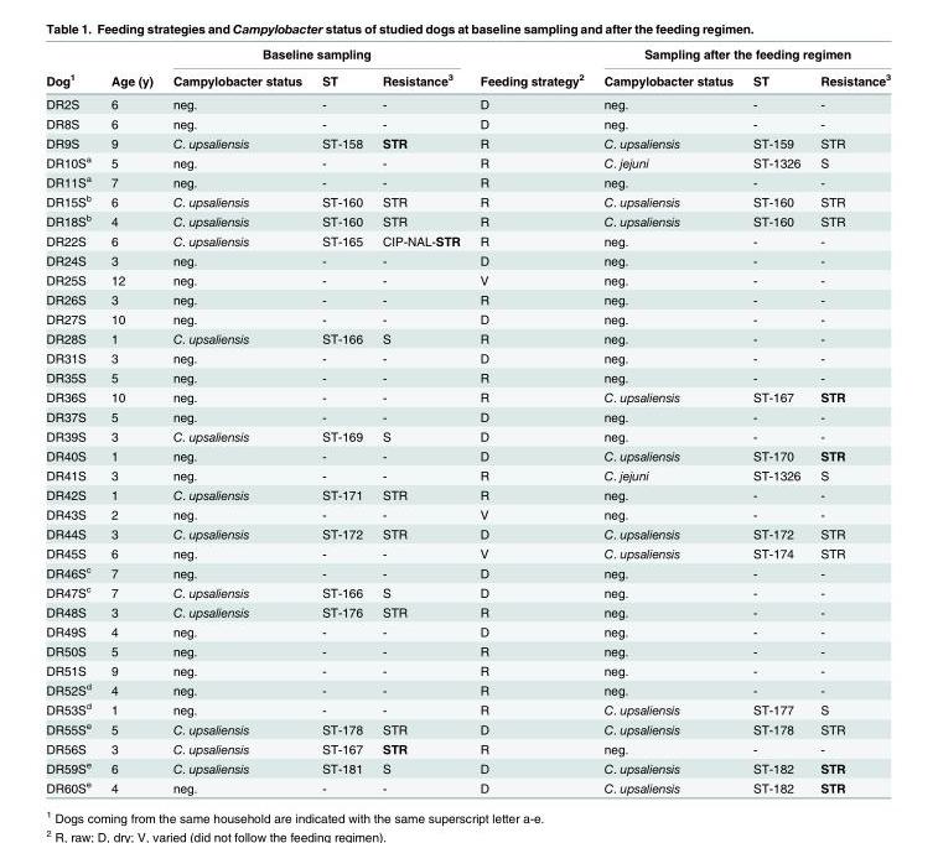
<table><thead><tr><td rowspan="2">Dog<sup>1</sup></td><td rowspan="2">Age (y)</td><td colspan="3">Baseline sampling</td><td rowspan="2">Feeding strategy<sup>2</sup></td><td colspan="3">Sampling after the feeding regimen</td></tr><tr><td>Campylobacter status</td><td>ST</td><td>Resistance<sup>3</sup></td><td>Campylobacter status</td><td>ST</td><td>Resistance<sup>3</sup></td></tr></thead><tbody><tr><td>DR2S</td><td>6</td><td>neg.</td><td>-</td><td>-</td><td>D</td><td>neg.</td><td>-</td><td>-</td></tr><tr><td>DR8S</td><td>6</td><td>neg.</td><td>-</td><td>-</td><td>D</td><td>neg.</td><td>-</td><td>-</td></tr><tr><td>DR9S</td><td>9</td><td>C. upsaliensis</td><td>ST-158</td><td>STR</td><td>R</td><td>C. upsaliensis</td><td>ST-159</td><td>STR</td></tr><tr><td>DR10S<sup>a</sup></td><td>5</td><td>neg.</td><td>-</td><td>-</td><td>R</td><td>C. jejuni</td><td>ST-1326</td><td>S</td></tr><tr><td>DR11S<sup>a</sup></td><td>7</td><td>neg.</td><td>-</td><td>-</td><td>R</td><td>neg.</td><td>-</td><td>-</td></tr><tr><td>DR15S<sup>b</sup></td><td>6</td><td>C. upsaliensis</td><td>ST-160</td><td>STR</td><td>R</td><td>C. upsaliensis</td><td>ST-160</td><td>STR</td></tr><tr><td>DR18S<sup>b</sup></td><td>4</td><td>C. upsaliensis</td><td>ST-160</td><td>STR</td><td>R</td><td>C. upsaliensis</td><td>ST-160</td><td>STR</td></tr><tr><td>DR22S</td><td>6</td><td>C. upsaliensis</td><td>ST-165</td><td>CIP-NAL-STR</td><td>R</td><td>neg.</td><td>-</td><td>-</td></tr><tr><td>DR24S</td><td>3</td><td>neg.</td><td>-</td><td>-</td><td>D</td><td>neg.</td><td>-</td><td>-</td></tr><tr><td>DR25S</td><td>12</td><td>neg.</td><td>-</td><td>-</td><td>V</td><td>neg.</td><td>-</td><td>-</td></tr><tr><td>DR26S</td><td>3</td><td>neg.</td><td>-</td><td>-</td><td>R</td><td>neg.</td><td>-</td><td>-</td></tr><tr><td>DR27S</td><td>10</td><td>neg.</td><td>-</td><td>-</td><td>D</td><td>neg.</td><td>-</td><td>-</td></tr><tr><td>DR28S</td><td>1</td><td>C. upsaliensis</td><td>ST-166</td><td>S</td><td>R</td><td>neg.</td><td>-</td><td>-</td></tr><tr><td>DR31S</td><td>3</td><td>neg.</td><td>-</td><td>-</td><td>D</td><td>neg.</td><td>-</td><td>-</td></tr><tr><td>DR35S</td><td>5</td><td>neg.</td><td>-</td><td>-</td><td>R</td><td>neg.</td><td>-</td><td>-</td></tr><tr><td>DR36S</td><td>10</td><td>neg.</td><td>-</td><td>-</td><td>R</td><td>C. upsaliensis</td><td>ST-167</td><td>STR</td></tr><tr><td>DR37S</td><td>5</td><td>neg.</td><td>-</td><td>-</td><td>D</td><td>neg.</td><td>-</td><td>-</td></tr><tr><td>DR39S</td><td>3</td><td>C. upsaliensis</td><td>ST-169</td><td>S</td><td>D</td><td>neg.</td><td>-</td><td>-</td></tr><tr><td>DR40S</td><td>1</td><td>neg.</td><td>-</td><td>-</td><td>D</td><td>C. upsaliensis</td><td>ST-170</td><td>STR</td></tr><tr><td>DR41S</td><td>3</td><td>neg.</td><td>-</td><td>-</td><td>R</td><td>C. jejuni</td><td>ST-1326</td><td>S</td></tr><tr><td>DR42S</td><td>1</td><td>C. upsaliensis</td><td>ST-171</td><td>STR</td><td>R</td><td>neg.</td><td>-</td><td>-</td></tr><tr><td>DR43S</td><td>2</td><td>neg.</td><td>-</td><td>-</td><td>V</td><td>neg.</td><td>-</td><td>-</td></tr><tr><td>DR44S</td><td>3</td><td>C. upsaliensis</td><td>ST-172</td><td>STR</td><td>D</td><td>C. upsaliensis</td><td>ST-172</td><td>STR</td></tr><tr><td>DR45S</td><td>6</td><td>neg.</td><td>-</td><td>-</td><td>V</td><td>C. upsaliensis</td><td>ST-174</td><td>STR</td></tr><tr><td>DR46S<sup>c</sup></td><td>7</td><td>neg.</td><td>-</td><td>-</td><td>D</td><td>neg.</td><td>-</td><td>-</td></tr><tr><td>DR47S<sup>c</sup></td><td>7</td><td>C. upsaliensis</td><td>ST-166</td><td>S</td><td>D</td><td>neg.</td><td>-</td><td>-</td></tr><tr><td>DR48S</td><td>3</td><td>C. upsaliensis</td><td>ST-176</td><td>STR</td><td>R</td><td>neg.</td><td>-</td><td>-</td></tr><tr><td>DR49S</td><td>4</td><td>neg.</td><td>-</td><td>-</td><td>D</td><td>neg.</td><td>-</td><td>-</td></tr><tr><td>DR50S</td><td>5</td><td>neg.</td><td>-</td><td>-</td><td>R</td><td>neg.</td><td>-</td><td>-</td></tr><tr><td>DR51S</td><td>9</td><td>neg.</td><td>-</td><td>-</td><td>R</td><td>neg.</td><td>-</td><td>-</td></tr><tr><td>DR52S<sup>d</sup></td><td>4</td><td>neg.</td><td>-</td><td>-</td><td>R</td><td>neg.</td><td>-</td><td>-</td></tr><tr><td>DR53S<sup>d</sup></td><td>1</td><td>neg.</td><td>-</td><td>-</td><td>R</td><td>C. upsaliensis</td><td>ST-177</td><td>S</td></tr><tr><td>DR55S<sup>e</sup></td><td>5</td><td>C. upsaliensis</td><td>ST-178</td><td>STR</td><td>D</td><td>C. upsaliensis</td><td>ST-178</td><td>STR</td></tr><tr><td>DR56S</td><td>3</td><td>C. upsaliensis</td><td>ST-167</td><td>STR</td><td>R</td><td>neg.</td><td>-</td><td>-</td></tr><tr><td>DR59S<sup>e</sup></td><td>6</td><td>C. upsaliensis</td><td>ST-181</td><td>S</td><td>D</td><td>C. upsaliensis</td><td>ST-182</td><td>STR</td></tr><tr><td>DR60S<sup>e</sup></td><td>4</td><td>neg.</td><td>-</td><td>-</td><td>D</td><td>C. upsaliensis</td><td>ST-182</td><td>STR</td></tr></tbody></table>